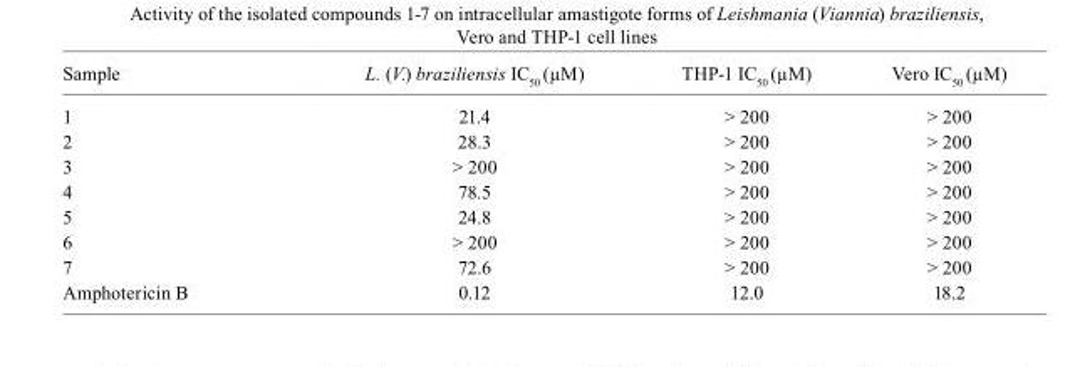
<table><thead><tr><td>Sample</td><td>L. (V.) braziliensis IC<sub>50</sub> (µM)</td><td>THP-1 IC<sub>50</sub> (µM)</td><td>Vero IC<sub>50</sub> (µM)</td></tr></thead><tbody><tr><td>1</td><td>21.4</td><td>&gt; 200</td><td>&gt; 200</td></tr><tr><td>2</td><td>28.3</td><td>&gt; 200</td><td>&gt; 200</td></tr><tr><td>3</td><td>&gt; 200</td><td>&gt; 200</td><td>&gt; 200</td></tr><tr><td>4</td><td>78.5</td><td>&gt; 200</td><td>&gt; 200</td></tr><tr><td>5</td><td>24.8</td><td>&gt; 200</td><td>&gt; 200</td></tr><tr><td>6</td><td>&gt; 200</td><td>&gt; 200</td><td>&gt; 200</td></tr><tr><td>7</td><td>72.6</td><td>&gt; 200</td><td>&gt; 200</td></tr><tr><td>Amphotericin B</td><td>0.12</td><td>12.0</td><td>18.2</td></tr></tbody></table>